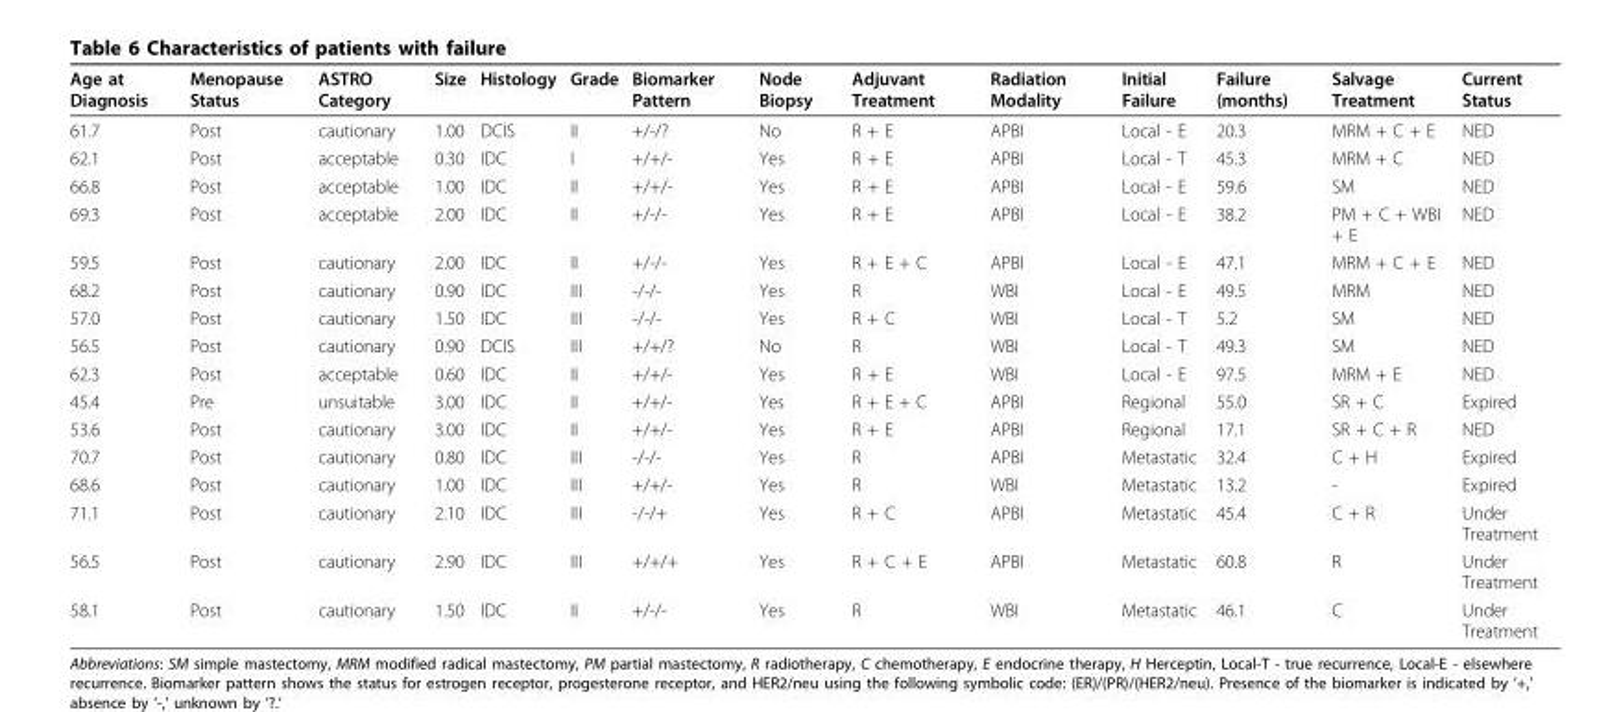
<table><thead><tr><td>Age at Diagnosis</td><td>Menopause Status</td><td>ASTRO Category</td><td>Size</td><td>Histology</td><td>Grade</td><td>Biomarker Pattern</td><td>Node Biopsy</td><td>Adjuvant Treatment</td><td>Radiation Modality</td><td>Initial Failure</td><td>Failure (months)</td><td>Salvage Treatment</td><td>Current Status</td></tr></thead><tbody><tr><td>61.7</td><td>Post</td><td>cautionary</td><td>1.00</td><td>DCIS</td><td>II</td><td>+/-/?</td><td>No</td><td>R + E</td><td>APBI</td><td>Local - E</td><td>20.3</td><td>MRM + C + E</td><td>NED</td></tr><tr><td>62.1</td><td>Post</td><td>acceptable</td><td>0.30</td><td>IDC</td><td>I</td><td>+/+/-</td><td>Yes</td><td>R + E</td><td>APBI</td><td>Local - T</td><td>45.3</td><td>MRM + C</td><td>NED</td></tr><tr><td>66.8</td><td>Post</td><td>acceptable</td><td>1.00</td><td>IDC</td><td>II</td><td>+/+/-</td><td>Yes</td><td>R + E</td><td>APBI</td><td>Local - E</td><td>59.6</td><td>SM</td><td>NED</td></tr><tr><td>69.3</td><td>Post</td><td>acceptable</td><td>2.00</td><td>IDC</td><td>II</td><td>+/-/-</td><td>Yes</td><td>R + E</td><td>APBI</td><td>Local - E</td><td>38.2</td><td>PM + C + WBI + E</td><td>NED</td></tr><tr><td>59.5</td><td>Post</td><td>cautionary</td><td>2.00</td><td>IDC</td><td>II</td><td>+/-/-</td><td>Yes</td><td>R + E + C</td><td>APBI</td><td>Local - E</td><td>47.1</td><td>MRM + C + E</td><td>NED</td></tr><tr><td>68.2</td><td>Post</td><td>cautionary</td><td>0.90</td><td>IDC</td><td>III</td><td>-/-/-</td><td>Yes</td><td>R</td><td>WBI</td><td>Local - E</td><td>49.5</td><td>MRM</td><td>NED</td></tr><tr><td>57.0</td><td>Post</td><td>cautionary</td><td>1.50</td><td>IDC</td><td>III</td><td>-/-/-</td><td>Yes</td><td>R + C</td><td>WBI</td><td>Local - T</td><td>5.2</td><td>SM</td><td>NED</td></tr><tr><td>56.5</td><td>Post</td><td>cautionary</td><td>0.90</td><td>DCIS</td><td>III</td><td>+/+/?</td><td>No</td><td>R</td><td>WBI</td><td>Local - T</td><td>49.3</td><td>SM</td><td>NED</td></tr><tr><td>62.3</td><td>Post</td><td>acceptable</td><td>0.60</td><td>IDC</td><td>II</td><td>+/+/-</td><td>Yes</td><td>R + E</td><td>WBI</td><td>Local - E</td><td>97.5</td><td>MRM + E</td><td>NED</td></tr><tr><td>45.4</td><td>Pre</td><td>unsuitable</td><td>3.00</td><td>IDC</td><td>II</td><td>+/+/-</td><td>Yes</td><td>R + E + C</td><td>APBI</td><td>Regional</td><td>55.0</td><td>SR + C</td><td>Expired</td></tr><tr><td>53.6</td><td>Post</td><td>cautionary</td><td>3.00</td><td>IDC</td><td>II</td><td>+/+/-</td><td>Yes</td><td>R + E</td><td>APBI</td><td>Regional</td><td>17.1</td><td>SR + C + R</td><td>NED</td></tr><tr><td>70.7</td><td>Post</td><td>cautionary</td><td>0.80</td><td>IDC</td><td>III</td><td>-/-/-</td><td>Yes</td><td>R</td><td>APBI</td><td>Metastatic</td><td>32.4</td><td>C + H</td><td>Expired</td></tr><tr><td>68.6</td><td>Post</td><td>cautionary</td><td>1.00</td><td>IDC</td><td>III</td><td>+/+/-</td><td>Yes</td><td>R</td><td>WBI</td><td>Metastatic</td><td>13.2</td><td>-</td><td>Expired</td></tr><tr><td>71.1</td><td>Post</td><td>cautionary</td><td>2.10</td><td>IDC</td><td>III</td><td>-/-/+</td><td>Yes</td><td>R + C</td><td>APBI</td><td>Metastatic</td><td>45.4</td><td>C + R</td><td>Under Treatment</td></tr><tr><td>56.5</td><td>Post</td><td>cautionary</td><td>2.90</td><td>IDC</td><td>III</td><td>+/+/+</td><td>Yes</td><td>R + C + E</td><td>APBI</td><td>Metastatic</td><td>60.8</td><td>R</td><td>Under Treatment</td></tr><tr><td>58.1</td><td>Post</td><td>cautionary</td><td>1.50</td><td>IDC</td><td>II</td><td>+/-/-</td><td>Yes</td><td>R</td><td>WBI</td><td>Metastatic</td><td>46.1</td><td>C</td><td>Under Treatment</td></tr></tbody></table>